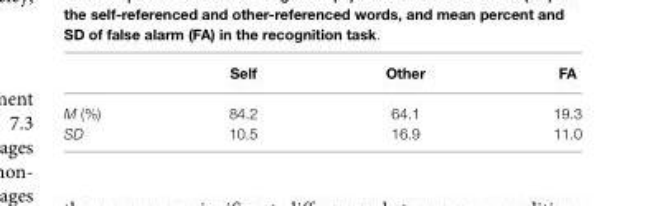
<table><thead><tr><td></td><td>Self</td><td>Other</td><td>FA</td></tr></thead><tbody><tr><td>M (%)</td><td>84.2</td><td>64.1</td><td>19.3</td></tr><tr><td>SD</td><td>10.5</td><td>16.9</td><td>11.0</td></tr></tbody></table>